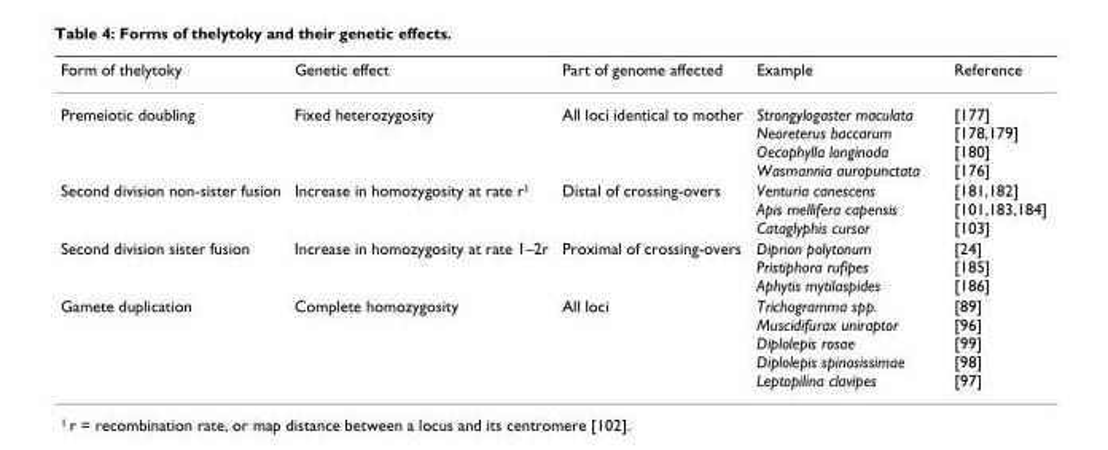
<table><thead><tr><td>Form of thelytoky</td><td>Genetic effect</td><td>Part of genome affected</td><td>Example</td><td>Reference</td></tr></thead><tbody><tr><td>Premeiotic doubling</td><td>Fixed heterozygosity</td><td>All loci identical to mother</td><td>Strongylogaster maculata Neoreterus baccarum Oecophylla longinoda Wasmannia auropunctata</td><td>[177] [178,179] [180] [176]</td></tr><tr><td>Second division non-sister fusion</td><td>Increase in homozygosity at rate r<sup>1</sup></td><td>Distal of crossing-overs</td><td>Venturia canescens Apis mellifera capensis Cataglyphis cursor</td><td>[181,182] [101,183,184] [103]</td></tr><tr><td>Second division sister fusion</td><td>Increase in homozygosity at rate 1–2r</td><td>Proximal of crossing-overs</td><td>Diprion polytonum Pristiphora rufipes Aphytis mytilaspides</td><td>[24] [185] [186]</td></tr><tr><td>Gamete duplication</td><td>Complete homozygosity</td><td>All loci</td><td>Trichogramma spp. Muscidifurax uniraptor Diplolepis rosae Diplolepis spinosissimae Leptopilina clavipes</td><td>[89] [96] [99] [98] [97]</td></tr></tbody></table>